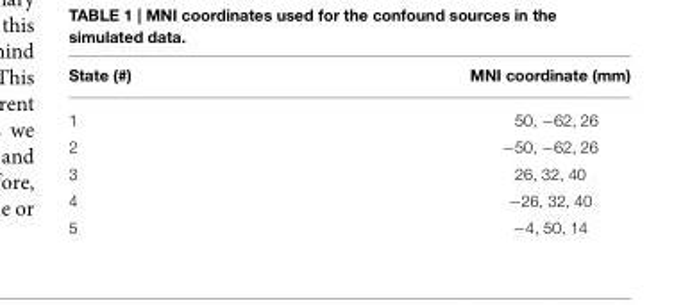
<table><thead><tr><td>State (#)</td><td>MNI coordinate (mm)</td></tr></thead><tbody><tr><td>1</td><td>50, −62, 26</td></tr><tr><td>2</td><td>−50, −62, 26</td></tr><tr><td>3</td><td>26, 32, 40</td></tr><tr><td>4</td><td>−26, 32, 40</td></tr><tr><td>5</td><td>−4, 50, 14</td></tr></tbody></table>